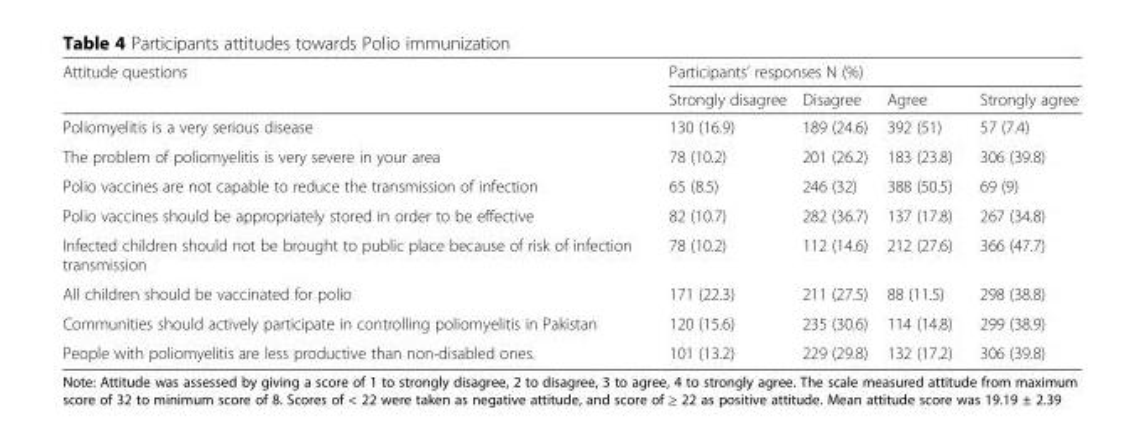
<table><thead><tr><td rowspan="2">Attitude questions</td><td colspan="4">Participants’ responses N (%)</td></tr><tr><td>Strongly disagree</td><td>Disagree</td><td>Agree</td><td>Strongly agree</td></tr></thead><tbody><tr><td>Poliomyelitis is a very serious disease</td><td>130 (16.9)</td><td>189 (24.6)</td><td>392 (51)</td><td>57 (7.4)</td></tr><tr><td>The problem of poliomyelitis is very severe in your area</td><td>78 (10.2)</td><td>201 (26.2)</td><td>183 (23.8)</td><td>306 (39.8)</td></tr><tr><td>Polio vaccines are not capable to reduce the transmission of infection</td><td>65 (8.5)</td><td>246 (32)</td><td>388 (50.5)</td><td>69 (9)</td></tr><tr><td>Polio vaccines should be appropriately stored in order to be effective</td><td>82 (10.7)</td><td>282 (36.7)</td><td>137 (17.8)</td><td>267 (34.8)</td></tr><tr><td>Infected children should not be brought to public place because of risk of infection transmission</td><td>78 (10.2)</td><td>112 (14.6)</td><td>212 (27.6)</td><td>366 (47.7)</td></tr><tr><td>All children should be vaccinated for polio</td><td>171 (22.3)</td><td>211 (27.5)</td><td>88 (11.5)</td><td>298 (38.8)</td></tr><tr><td>Communities should actively participate in controlling poliomyelitis in Pakistan</td><td>120 (15.6)</td><td>235 (30.6)</td><td>114 (14.8)</td><td>299 (38.9)</td></tr><tr><td>People with poliomyelitis are less productive than non-disabled ones.</td><td>101 (13.2)</td><td>229 (29.8)</td><td>132 (17.2)</td><td>306 (39.8)</td></tr></tbody></table>